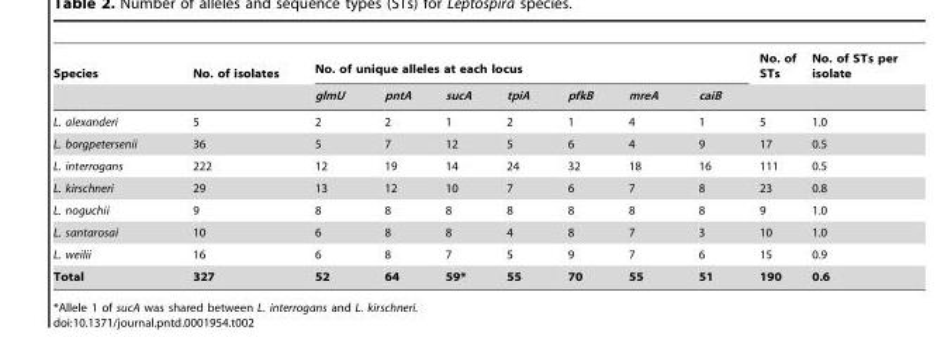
<table><thead><tr><td rowspan="2">Species</td><td rowspan="2">No. of isolates</td><td colspan="7">No. of unique alleles at each locus</td><td rowspan="2">No. of STs</td><td rowspan="2">No. of STs per isolate</td></tr><tr><td>glmU</td><td>pntA</td><td>sucA</td><td>tpiA</td><td>pfkB</td><td>mreA</td><td>caiB</td></tr></thead><tbody><tr><td>L. alexanderi</td><td>5</td><td>2</td><td>2</td><td>1</td><td>2</td><td>1</td><td>4</td><td>1</td><td>5</td><td>1.0</td></tr><tr><td>L. borgpetersenii</td><td>36</td><td>5</td><td>7</td><td>12</td><td>5</td><td>6</td><td>4</td><td>9</td><td>17</td><td>0.5</td></tr><tr><td>L. interrogans</td><td>222</td><td>12</td><td>19</td><td>14</td><td>24</td><td>32</td><td>18</td><td>16</td><td>111</td><td>0.5</td></tr><tr><td>L. kirschneri</td><td>29</td><td>13</td><td>12</td><td>10</td><td>7</td><td>6</td><td>7</td><td>8</td><td>23</td><td>0.8</td></tr><tr><td>L. noguchii</td><td>9</td><td>8</td><td>8</td><td>8</td><td>8</td><td>8</td><td>8</td><td>8</td><td>9</td><td>1.0</td></tr><tr><td>L. santarosai</td><td>10</td><td>6</td><td>8</td><td>8</td><td>4</td><td>8</td><td>7</td><td>3</td><td>10</td><td>1.0</td></tr><tr><td>L. weilii</td><td>16</td><td>6</td><td>8</td><td>7</td><td>5</td><td>9</td><td>7</td><td>6</td><td>15</td><td>0.9</td></tr><tr><td>Total</td><td>327</td><td>52</td><td>64</td><td>59*</td><td>55</td><td>70</td><td>55</td><td>51</td><td>190</td><td>0.6</td></tr></tbody></table>